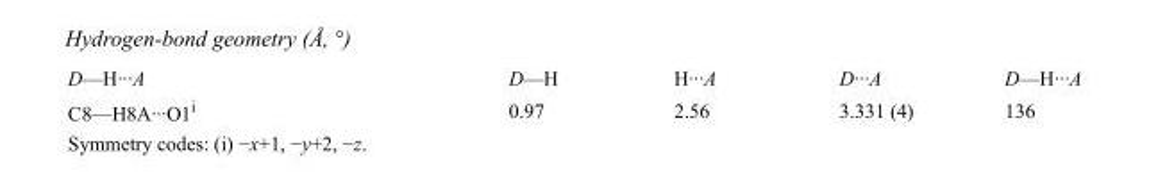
<table><tbody><tr><td>D—H···A</td><td>D—H</td><td>H···A</td><td>D···A</td><td>D—H···A</td></tr><tr><td>C8—H8A···O1<sup>i</sup></td><td>0.97</td><td>2.56</td><td>3.331 (4)</td><td>136</td></tr></tbody></table>